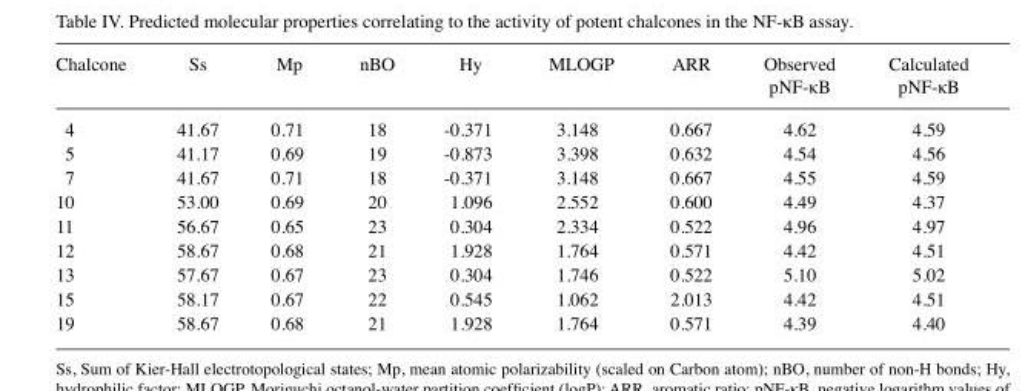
<table><thead><tr><td>Chalcone</td><td>Ss</td><td>Mp</td><td>nBO</td><td>Hy</td><td>MLOGP</td><td>ARR</td><td>Observed pNF-κB</td><td>Calculated pNF-κB</td></tr></thead><tbody><tr><td>4</td><td>41.67</td><td>0.71</td><td>18</td><td>-0.371</td><td>3.148</td><td>0.667</td><td>4.62</td><td>4.59</td></tr><tr><td>5</td><td>41.17</td><td>0.69</td><td>19</td><td>-0.873</td><td>3.398</td><td>0.632</td><td>4.54</td><td>4.56</td></tr><tr><td>7</td><td>41.67</td><td>0.71</td><td>18</td><td>-0.371</td><td>3.148</td><td>0.667</td><td>4.55</td><td>4.59</td></tr><tr><td>10</td><td>53.00</td><td>0.69</td><td>20</td><td>1.096</td><td>2.552</td><td>0.600</td><td>4.49</td><td>4.37</td></tr><tr><td>11</td><td>56.67</td><td>0.65</td><td>23</td><td>0.304</td><td>2.334</td><td>0.522</td><td>4.96</td><td>4.97</td></tr><tr><td>12</td><td>58.67</td><td>0.68</td><td>21</td><td>1.928</td><td>1.764</td><td>0.571</td><td>4.42</td><td>4.51</td></tr><tr><td>13</td><td>57.67</td><td>0.67</td><td>23</td><td>0.304</td><td>1.746</td><td>0.522</td><td>5.10</td><td>5.02</td></tr><tr><td>15</td><td>58.17</td><td>0.67</td><td>22</td><td>0.545</td><td>1.062</td><td>2.013</td><td>4.42</td><td>4.51</td></tr><tr><td>19</td><td>58.67</td><td>0.68</td><td>21</td><td>1.928</td><td>1.764</td><td>0.571</td><td>4.39</td><td>4.40</td></tr></tbody></table>